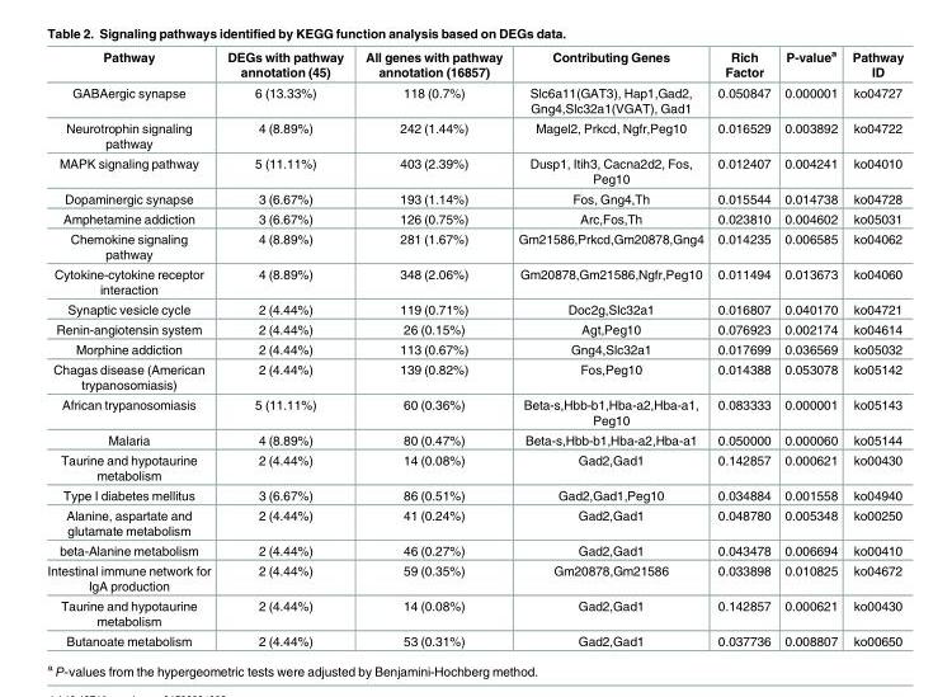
<table><thead><tr><td>Pathway</td><td>DEGs with pathway annotation (45)</td><td>All genes with pathway annotation (16857)</td><td>Contributing Genes</td><td>Rich Factor</td><td>P-value<sup>a</sup></td><td>Pathway ID</td></tr></thead><tbody><tr><td>GABAergic synapse</td><td>6 (13.33%)</td><td>118 (0.7%)</td><td>Slc6a11(GAT3), Hap1,Gad2, Gng4,Slc32a1(VGAT), Gad1</td><td>0.050847</td><td>0.000001</td><td>ko04727</td></tr><tr><td>Neurotrophin signaling pathway</td><td>4 (8.89%)</td><td>242 (1.44%)</td><td>Magel2, Prkcd, Ngfr,Peg10</td><td>0.016529</td><td>0.003892</td><td>ko04722</td></tr><tr><td>MAPK signaling pathway</td><td>5 (11.11%)</td><td>403 (2.39%)</td><td>Dusp1, Itih3, Cacna2d2, Fos, Peg10</td><td>0.012407</td><td>0.004241</td><td>ko04010</td></tr><tr><td>Dopaminergic synapse</td><td>3 (6.67%)</td><td>193 (1.14%)</td><td>Fos, Gng4,Th</td><td>0.015544</td><td>0.014738</td><td>ko04728</td></tr><tr><td>Amphetamine addiction</td><td>3 (6.67%)</td><td>126 (0.75%)</td><td>Arc,Fos,Th</td><td>0.023810</td><td>0.004602</td><td>ko05031</td></tr><tr><td>Chemokine signaling pathway</td><td>4 (8.89%)</td><td>281 (1.67%)</td><td>Gm21586,Prkcd,Gm20878,Gng4</td><td>0.014235</td><td>0.006585</td><td>ko04062</td></tr><tr><td>Cytokine-cytokine receptor interaction</td><td>4 (8.89%)</td><td>348 (2.06%)</td><td>Gm20878,Gm21586,Ngfr,Peg10</td><td>0.011494</td><td>0.013673</td><td>ko04060</td></tr><tr><td>Synaptic vesicle cycle</td><td>2 (4.44%)</td><td>119 (0.71%)</td><td>Doc2g,Slc32a1</td><td>0.016807</td><td>0.040170</td><td>ko04721</td></tr><tr><td>Renin-angiotensin system</td><td>2 (4.44%)</td><td>26 (0.15%)</td><td>Agt,Peg10</td><td>0.076923</td><td>0.002174</td><td>ko04614</td></tr><tr><td>Morphine addiction</td><td>2 (4.44%)</td><td>113 (0.67%)</td><td>Gng4,Slc32a1</td><td>0.017699</td><td>0.036569</td><td>ko05032</td></tr><tr><td>Chagas disease (American trypanosomiasis)</td><td>2 (4.44%)</td><td>139 (0.82%)</td><td>Fos,Peg10</td><td>0.014388</td><td>0.053078</td><td>ko05142</td></tr><tr><td>African trypanosomiasis</td><td>5 (11.11%)</td><td>60 (0.36%)</td><td>Beta-s,Hbb-b1,Hba-a2,Hba-a1, Peg10</td><td>0.083333</td><td>0.000001</td><td>ko05143</td></tr><tr><td>Malaria</td><td>4 (8.89%)</td><td>80 (0.47%)</td><td>Beta-s,Hbb-b1,Hba-a2,Hba-a1</td><td>0.050000</td><td>0.000060</td><td>ko05144</td></tr><tr><td>Taurine and hypotaurine metabolism</td><td>2 (4.44%)</td><td>14 (0.08%)</td><td>Gad2,Gad1</td><td>0.142857</td><td>0.000621</td><td>ko00430</td></tr><tr><td>Type I diabetes mellitus</td><td>3 (6.67%)</td><td>86 (0.51%)</td><td>Gad2,Gad1,Peg10</td><td>0.034884</td><td>0.001558</td><td>ko04940</td></tr><tr><td>Alanine, aspartate and glutamate metabolism</td><td>2 (4.44%)</td><td>41 (0.24%)</td><td>Gad2,Gad1</td><td>0.048780</td><td>0.005348</td><td>ko00250</td></tr><tr><td>beta-Alanine metabolism</td><td>2 (4.44%)</td><td>46 (0.27%)</td><td>Gad2,Gad1</td><td>0.043478</td><td>0.006694</td><td>ko00410</td></tr><tr><td>Intestinal immune network for IgA production</td><td>2 (4.44%)</td><td>59 (0.35%)</td><td>Gm20878,Gm21586</td><td>0.033898</td><td>0.010825</td><td>ko04672</td></tr><tr><td>Taurine and hypotaurine metabolism</td><td>2 (4.44%)</td><td>14 (0.08%)</td><td>Gad2,Gad1</td><td>0.142857</td><td>0.000621</td><td>ko00430</td></tr><tr><td>Butanoate metabolism</td><td>2 (4.44%)</td><td>53 (0.31%)</td><td>Gad2,Gad1</td><td>0.037736</td><td>0.008807</td><td>ko00650</td></tr></tbody></table>